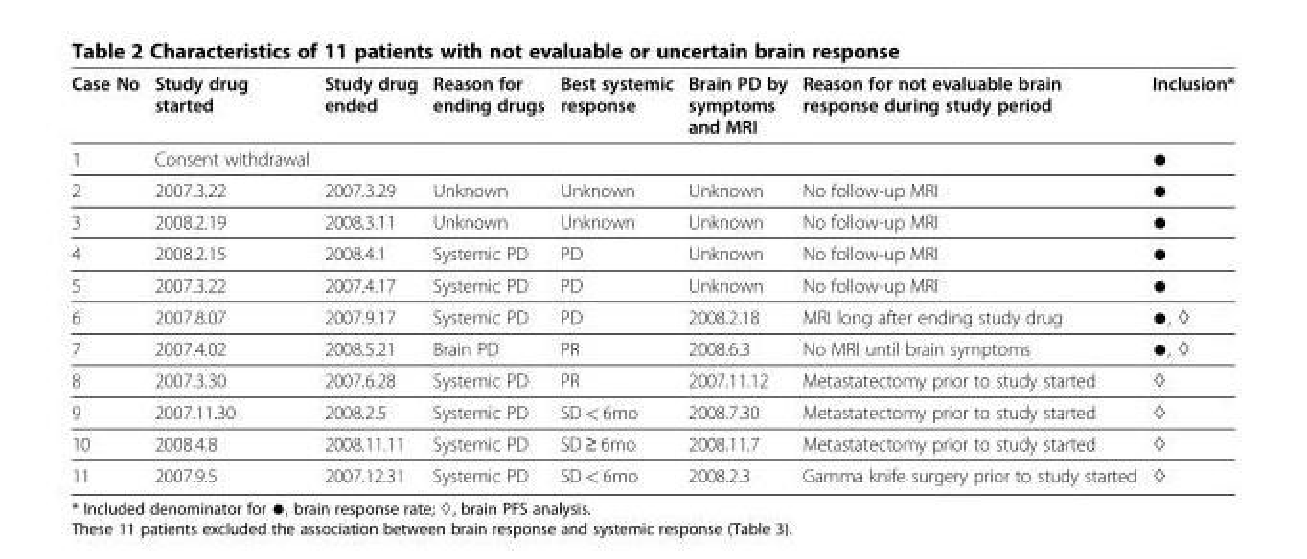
<table><thead><tr><td>Case No</td><td>Study drug started</td><td>Study drug ended</td><td>Reason for ending drugs</td><td>Best systemic response</td><td>Brain PD by symptoms and MRI</td><td>Reason for not evaluable brain response during study period</td><td>Inclusion*</td></tr></thead><tbody><tr><td>1</td><td>Consent withdrawal</td><td></td><td></td><td></td><td></td><td></td><td>●</td></tr><tr><td>2</td><td>2007.3.22</td><td>2007.3.29</td><td>Unknown</td><td>Unknown</td><td>Unknown</td><td>No follow-up MRI</td><td>●</td></tr><tr><td>3</td><td>2008.2.19</td><td>2008.3.11</td><td>Unknown</td><td>Unknown</td><td>Unknown</td><td>No follow-up MRI</td><td>●</td></tr><tr><td>4</td><td>2008.2.15</td><td>2008.4.1</td><td>Systemic PD</td><td>PD</td><td>Unknown</td><td>No follow-up MRI</td><td>●</td></tr><tr><td>5</td><td>2007.3.22</td><td>2007.4.17</td><td>Systemic PD</td><td>PD</td><td>Unknown</td><td>No follow-up MRI</td><td>●</td></tr><tr><td>6</td><td>2007.8.07</td><td>2007.9.17</td><td>Systemic PD</td><td>PD</td><td>2008.2.18</td><td>MRI long after ending study drug</td><td>●, ◊</td></tr><tr><td>7</td><td>2007.4.02</td><td>2008.5.21</td><td>Brain PD</td><td>PR</td><td>2008.6.3</td><td>No MRI until brain symptoms</td><td>●, ◊</td></tr><tr><td>8</td><td>2007.3.30</td><td>2007.6.28</td><td>Systemic PD</td><td>PR</td><td>2007.11.12</td><td>Metastatectomy prior to study started</td><td>◊</td></tr><tr><td>9</td><td>2007.11.30</td><td>2008.2.5</td><td>Systemic PD</td><td>SD &lt; 6mo</td><td>2008.7.30</td><td>Metastatectomy prior to study started</td><td>◊</td></tr><tr><td>10</td><td>2008.4.8</td><td>2008.11.11</td><td>Systemic PD</td><td>SD ≥ 6mo</td><td>2008.11.7</td><td>Metastatectomy prior to study started</td><td>◊</td></tr><tr><td>11</td><td>2007.9.5</td><td>2007.12.31</td><td>Systemic PD</td><td>SD &lt; 6mo</td><td>2008.2.3</td><td>Gamma knife surgery prior to study started</td><td>◊</td></tr></tbody></table>